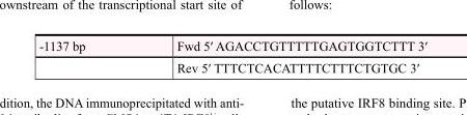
<table><tbody><tr><td rowspan="2">-1137 bp</td><td>Fwd 5′ AGACCTGTTTTTGAGTGGTCTTT 3′</td></tr><tr><td>Rev 5′ TTTCTCACATTTTCTTTCTGTGC 3′</td></tr></tbody></table>